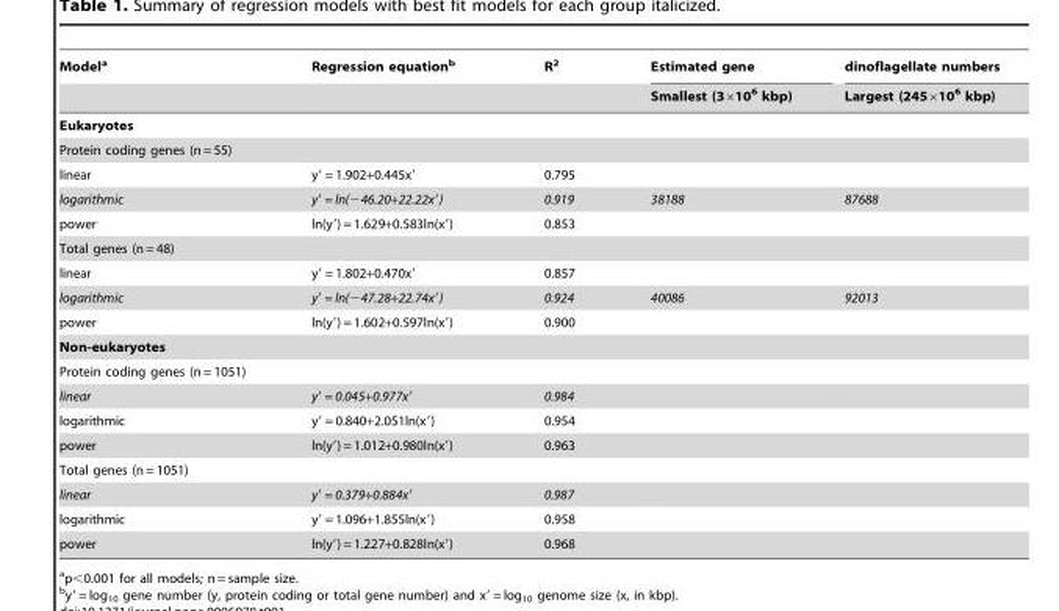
<table><thead><tr><td rowspan="2">Model<sup>a</sup></td><td rowspan="2">Regression equation<sup>b</sup></td><td rowspan="2">R<sup>2</sup></td><td rowspan="2">Estimated gene Smallest (3×10<sup>6</sup> kbp)</td><td rowspan="2">dinoflagellate numbers Largest (245×10<sup>6</sup> kbp)</td></tr><tr></tr></thead><tbody><tr><td colspan="5">Eukaryotes</td></tr><tr><td colspan="5">Protein coding genes (n = 55)</td></tr><tr><td>linear</td><td>y′ = 1.902+0.445x′</td><td>0.795</td><td></td><td></td></tr><tr><td>logarithmic</td><td>y′ = ln(−46.20+22.22x′)</td><td>0.919</td><td>38188</td><td>87688</td></tr><tr><td>power</td><td>ln(y′) = 1.629+0.583ln(x′)</td><td>0.853</td><td></td><td></td></tr><tr><td colspan="5">Total genes (n = 48)</td></tr><tr><td>linear</td><td>y′ = 1.802+0.470x′</td><td>0.857</td><td></td><td></td></tr><tr><td>logarithmic</td><td>y′ = ln(−47.28+22.74x′)</td><td>0.924</td><td>40086</td><td>92013</td></tr><tr><td>power</td><td>ln(y′) = 1.602+0.597ln(x′)</td><td>0.900</td><td></td><td></td></tr><tr><td colspan="5">Non-eukaryotes</td></tr><tr><td colspan="5">Protein coding genes (n = 1051)</td></tr><tr><td>linear</td><td>y′ = 0.045+0.977x′</td><td>0.984</td><td></td><td></td></tr><tr><td>logarithmic</td><td>y′ = 0.840+2.051ln(x′)</td><td>0.954</td><td></td><td></td></tr><tr><td>power</td><td>ln(y′) = 1.012+0.980ln(x′)</td><td>0.963</td><td></td><td></td></tr><tr><td colspan="5">Total genes (n = 1051)</td></tr><tr><td>linear</td><td>y′ = 0.379+0.884x′</td><td>0.987</td><td></td><td></td></tr><tr><td>logarithmic</td><td>y′ = 1.096+1.855ln(x′)</td><td>0.958</td><td></td><td></td></tr><tr><td>power</td><td>ln(y′) = 1.227+0.828ln(x′)</td><td>0.968</td><td></td><td></td></tr></tbody></table>